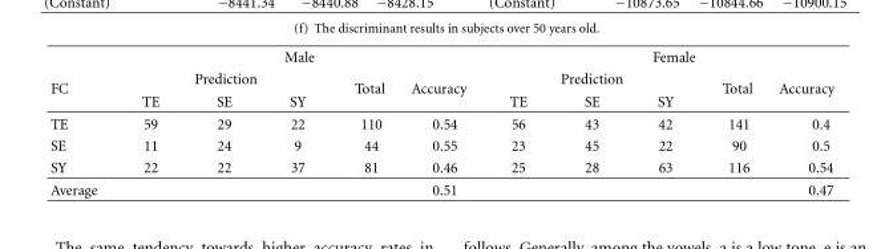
<table><thead><tr><td rowspan="3">FC</td><td colspan="5">Male</td><td colspan="5">Female</td></tr><tr><td colspan="3">Prediction</td><td rowspan="2">Total</td><td rowspan="2">Accuracy</td><td colspan="3">Prediction</td><td rowspan="2">Total</td><td rowspan="2">Accuracy</td></tr><tr><td>TE</td><td>SE</td><td>SY</td><td>TE</td><td>SE</td><td>SY</td></tr></thead><tbody><tr><td>TE</td><td>59</td><td>29</td><td>22</td><td>110</td><td>0.54</td><td>56</td><td>43</td><td>42</td><td>141</td><td>0.4</td></tr><tr><td>SE</td><td>11</td><td>24</td><td>9</td><td>44</td><td>0.55</td><td>23</td><td>45</td><td>22</td><td>90</td><td>0.5</td></tr><tr><td>SY</td><td>22</td><td>22</td><td>37</td><td>81</td><td>0.46</td><td>25</td><td>28</td><td>63</td><td>116</td><td>0.54</td></tr><tr><td>Average</td><td></td><td></td><td></td><td></td><td>0.51</td><td></td><td></td><td></td><td></td><td>0.47</td></tr></tbody></table>